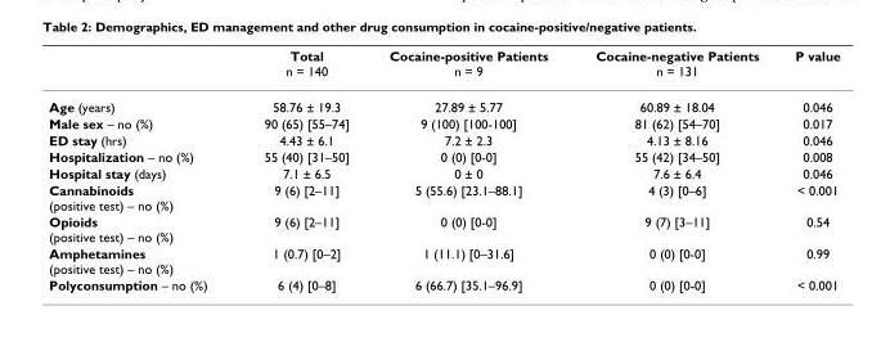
<table><thead><tr><td></td><td>Total n = 140</td><td>Cocaine-positive Patients n = 9</td><td>Cocaine-negative Patients n = 131</td><td>P value</td></tr></thead><tbody><tr><td>Age (years)</td><td>58.76 ± 19.3</td><td>27.89 ± 5.77</td><td>60.89 ± 18.04</td><td>0.046</td></tr><tr><td>Male sex – no (%)</td><td>90 (65) [55–74]</td><td>9 (100) [100-100]</td><td>81 (62) [54–70]</td><td>0.017</td></tr><tr><td>ED stay (hrs)</td><td>4.43 ± 6.1</td><td>7.2 ± 2.3</td><td>4.13 ± 8.16</td><td>0.046</td></tr><tr><td>Hospitalization – no (%)</td><td>55 (40) [31–50]</td><td>0 (0) [0-0]</td><td>55 (42) [34–50]</td><td>0.008</td></tr><tr><td>Hospital stay (days)</td><td>7.1 ± 6.5</td><td>0 ± 0</td><td>7.6 ± 6.4</td><td>0.046</td></tr><tr><td>Cannabinoids (positive test) – no (%)</td><td>9 (6) [2–11]</td><td>5 (55.6) [23.1–88.1]</td><td>4 (3) [0–6]</td><td>&lt; 0.001</td></tr><tr><td>Opioids (positive test) – no (%)</td><td>9 (6) [2–11]</td><td>0 (0) [0-0]</td><td>9 (7) [3–11]</td><td>0.54</td></tr><tr><td>Amphetamines (positive test) – no (%)</td><td>1 (0.7) [0–2]</td><td>1 (11.1) [0–31.6]</td><td>0 (0) [0-0]</td><td>0.99</td></tr><tr><td>Polyconsumption – no (%)</td><td>6 (4) [0–8]</td><td>6 (66.7) [35.1–96.9]</td><td>0 (0) [0-0]</td><td>&lt; 0.001</td></tr></tbody></table>